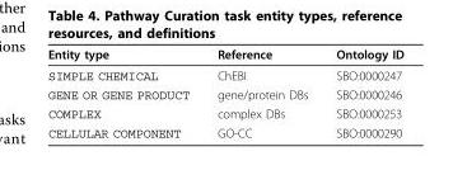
<table><thead><tr><td>Entity type</td><td>Reference</td><td>Ontology ID</td></tr></thead><tbody><tr><td>SIMPLE CHEMICAL</td><td>ChEBI</td><td>SBO:0000247</td></tr><tr><td>GENE OR GENE PRODUCT</td><td>gene/protein DBs</td><td>SBO:0000246</td></tr><tr><td>COMPLEX</td><td>complex DBs</td><td>SBO:0000253</td></tr><tr><td>CELLULAR COMPONENT</td><td>GO-CC</td><td>SBO:0000290</td></tr></tbody></table>